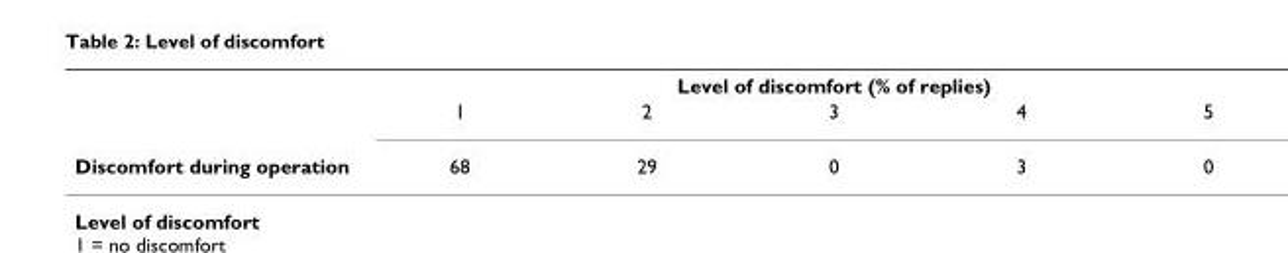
<table><thead><tr><td rowspan="2"></td><td colspan="5">Level of discomfort (% of replies)</td></tr><tr><td>1</td><td>2</td><td>3</td><td>4</td><td>5</td></tr></thead><tbody><tr><td>Discomfort during operation</td><td>68</td><td>29</td><td>0</td><td>3</td><td>0</td></tr></tbody></table>